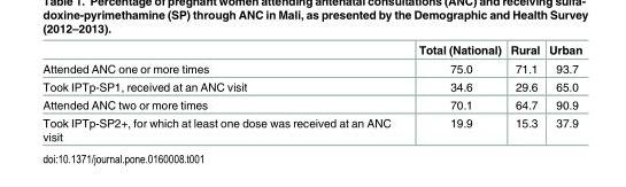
<table><thead><tr><td></td><td>Total (National)</td><td>Rural</td><td>Urban</td></tr></thead><tbody><tr><td>Attended ANC one or more times</td><td>75.0</td><td>71.1</td><td>93.7</td></tr><tr><td>Took IPTp-SP1, received at an ANC visit</td><td>34.6</td><td>29.6</td><td>65.0</td></tr><tr><td>Attended ANC two or more times</td><td>70.1</td><td>64.7</td><td>90.9</td></tr><tr><td>Took IPTp-SP2+, for which at least one dose was received at an ANC visit</td><td>19.9</td><td>15.3</td><td>37.9</td></tr></tbody></table>